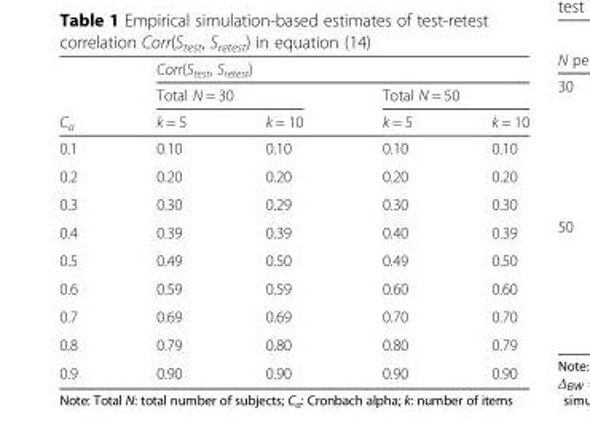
<table><thead><tr><td rowspan="3">C<sub>α</sub></td><td colspan="4">Corr(S<sub>test</sub>, S<sub>retest</sub>)</td></tr><tr><td colspan="2">Total N = 30</td><td colspan="2">Total N = 50</td></tr><tr><td>k = 5</td><td>k = 10</td><td>k = 5</td><td>k = 10</td></tr></thead><tbody><tr><td>0.1</td><td>0.10</td><td>0.10</td><td>0.10</td><td>0.10</td></tr><tr><td>0.2</td><td>0.20</td><td>0.20</td><td>0.20</td><td>0.20</td></tr><tr><td>0.3</td><td>0.30</td><td>0.29</td><td>0.30</td><td>0.30</td></tr><tr><td>0.4</td><td>0.39</td><td>0.39</td><td>0.40</td><td>0.39</td></tr><tr><td>0.5</td><td>0.49</td><td>0.50</td><td>0.49</td><td>0.50</td></tr><tr><td>0.6</td><td>0.59</td><td>0.59</td><td>0.60</td><td>0.60</td></tr><tr><td>0.7</td><td>0.69</td><td>0.69</td><td>0.70</td><td>0.70</td></tr><tr><td>0.8</td><td>0.79</td><td>0.80</td><td>0.80</td><td>0.79</td></tr><tr><td>0.9</td><td>0.90</td><td>0.90</td><td>0.90</td><td>0.90</td></tr></tbody></table>